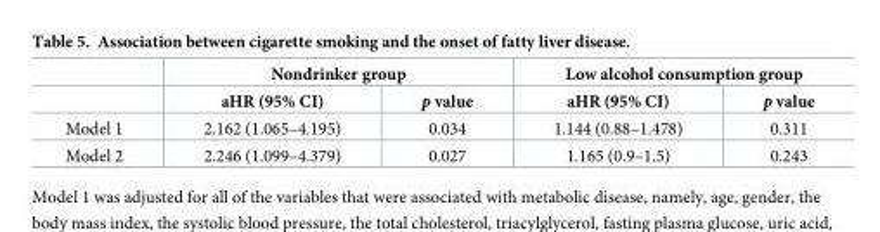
<table><thead><tr><td rowspan="2"></td><td colspan="2">Nondrinker group</td><td colspan="2">Low alcohol consumption group</td></tr><tr><td>aHR (95% CI)</td><td>p value</td><td>aHR (95% CI)</td><td>p value</td></tr></thead><tbody><tr><td>Model 1</td><td>2.162 (1.065–4.195)</td><td>0.034</td><td>1.144 (0.88–1.478)</td><td>0.311</td></tr><tr><td>Model 2</td><td>2.246 (1.099–4.379)</td><td>0.027</td><td>1.165 (0.9–1.5)</td><td>0.243</td></tr></tbody></table>